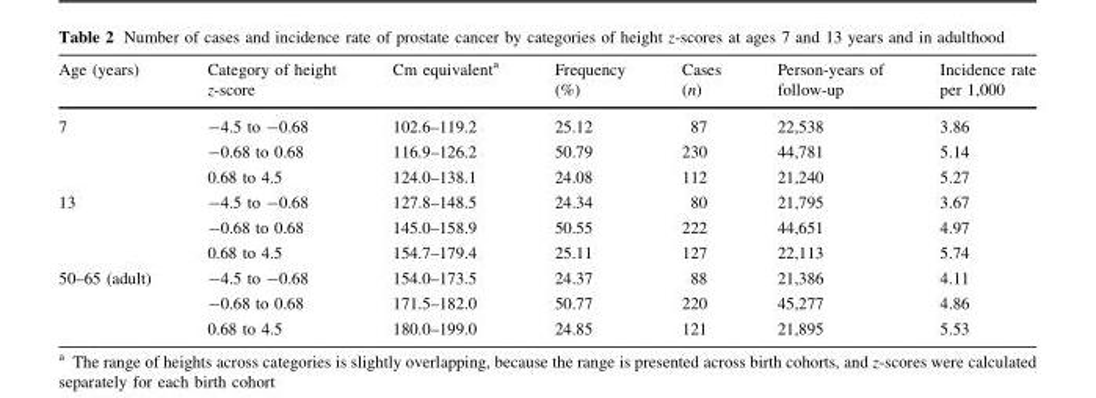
<table><thead><tr><td>Age (years)</td><td>Category of height z-score</td><td>Cm equivalent<sup>a</sup></td><td>Frequency (%)</td><td>Cases (n)</td><td>Person-years of follow-up</td><td>Incidence rate per 1,000</td></tr></thead><tbody><tr><td rowspan="3">7</td><td>-4.5 to -0.68</td><td>102.6–119.2</td><td>25.12</td><td>87</td><td>22,538</td><td>3.86</td></tr><tr><td>-0.68 to 0.68</td><td>116.9–126.2</td><td>50.79</td><td>230</td><td>44,781</td><td>5.14</td></tr><tr><td>0.68 to 4.5</td><td>124.0–138.1</td><td>24.08</td><td>112</td><td>21,240</td><td>5.27</td></tr><tr><td rowspan="3">13</td><td>-4.5 to -0.68</td><td>127.8–148.5</td><td>24.34</td><td>80</td><td>21,795</td><td>3.67</td></tr><tr><td>-0.68 to 0.68</td><td>145.0–158.9</td><td>50.55</td><td>222</td><td>44,651</td><td>4.97</td></tr><tr><td>0.68 to 4.5</td><td>154.7–179.4</td><td>25.11</td><td>127</td><td>22,113</td><td>5.74</td></tr><tr><td rowspan="3">50–65 (adult)</td><td>-4.5 to -0.68</td><td>154.0–173.5</td><td>24.37</td><td>88</td><td>21,386</td><td>4.11</td></tr><tr><td>-0.68 to 0.68</td><td>171.5–182.0</td><td>50.77</td><td>220</td><td>45,277</td><td>4.86</td></tr><tr><td>0.68 to 4.5</td><td>180.0–199.0</td><td>24.85</td><td>121</td><td>21,895</td><td>5.53</td></tr></tbody></table>